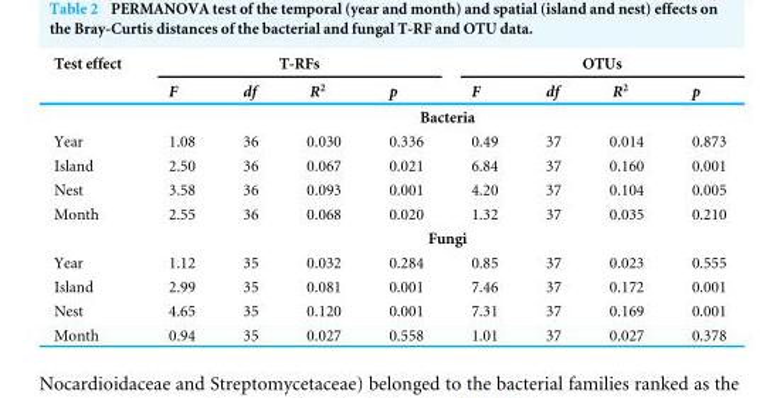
<table><thead><tr><td rowspan="2">Test effect</td><td colspan="4">T-RFs</td><td colspan="4">OTUs</td></tr><tr><td>F</td><td>df</td><td>R<sup>2</sup></td><td>p</td><td>F</td><td>df</td><td>R<sup>2</sup></td><td>p</td></tr></thead><tbody><tr><td></td><td colspan="8">Bacteria</td></tr><tr><td>Year</td><td>1.08</td><td>36</td><td>0.030</td><td>0.336</td><td>0.49</td><td>37</td><td>0.014</td><td>0.873</td></tr><tr><td>Island</td><td>2.50</td><td>36</td><td>0.067</td><td>0.021</td><td>6.84</td><td>37</td><td>0.160</td><td>0.001</td></tr><tr><td>Nest</td><td>3.58</td><td>36</td><td>0.093</td><td>0.001</td><td>4.20</td><td>37</td><td>0.104</td><td>0.005</td></tr><tr><td rowspan="2">Month</td><td>2.55</td><td>36</td><td>0.068</td><td>0.020</td><td>1.32</td><td>37</td><td>0.035</td><td>0.210</td></tr><tr><td colspan="8">Fungi</td></tr><tr><td>Year</td><td>1.12</td><td>35</td><td>0.032</td><td>0.284</td><td>0.85</td><td>37</td><td>0.023</td><td>0.555</td></tr><tr><td>Island</td><td>2.99</td><td>35</td><td>0.081</td><td>0.001</td><td>7.46</td><td>37</td><td>0.172</td><td>0.001</td></tr><tr><td>Nest</td><td>4.65</td><td>35</td><td>0.120</td><td>0.001</td><td>7.31</td><td>37</td><td>0.169</td><td>0.001</td></tr><tr><td>Month</td><td>0.94</td><td>35</td><td>0.027</td><td>0.558</td><td>1.01</td><td>37</td><td>0.027</td><td>0.378</td></tr></tbody></table>